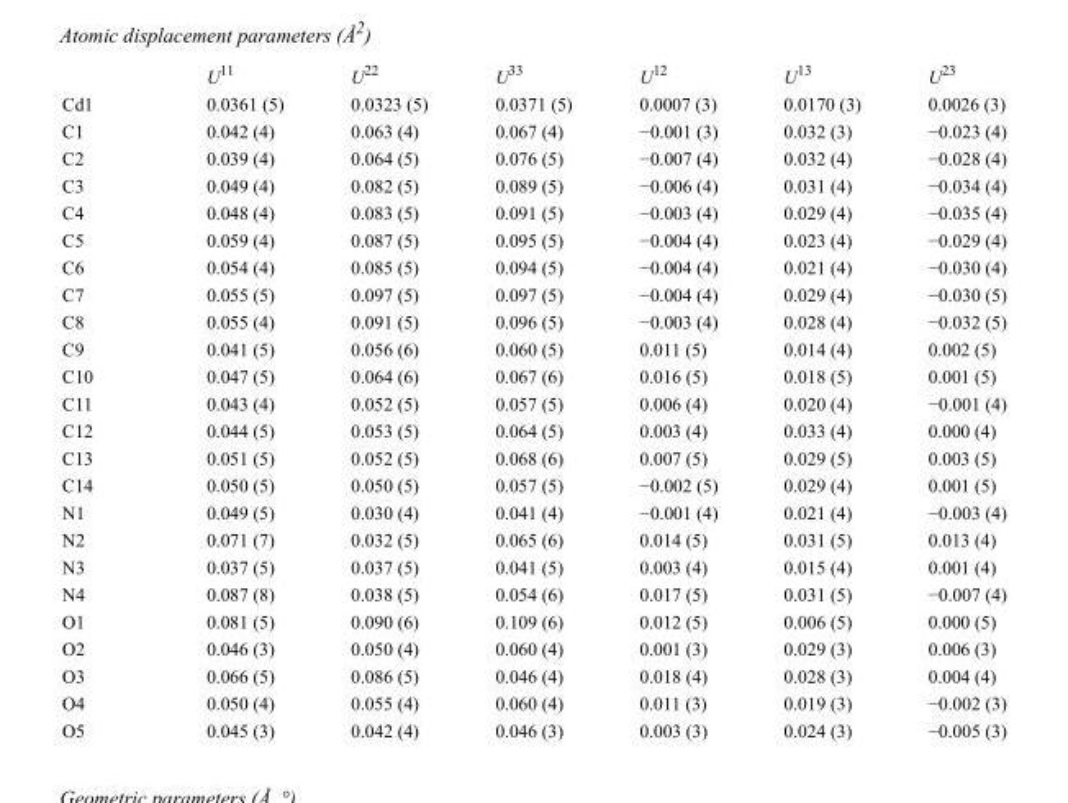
<table><thead><tr><td></td><td>U<sup>11</sup></td><td>U<sup>22</sup></td><td>U<sup>33</sup></td><td>U<sup>12</sup></td><td>U<sup>13</sup></td><td>U<sup>23</sup></td></tr></thead><tbody><tr><td>Cd1</td><td>0.0361 (5)</td><td>0.0323 (5)</td><td>0.0371 (5)</td><td>0.0007 (3)</td><td>0.0170 (3)</td><td>0.0026 (3)</td></tr><tr><td>C1</td><td>0.042 (4)</td><td>0.063 (4)</td><td>0.067 (4)</td><td>−0.001 (3)</td><td>0.032 (3)</td><td>−0.023 (4)</td></tr><tr><td>C2</td><td>0.039 (4)</td><td>0.064 (5)</td><td>0.076 (5)</td><td>−0.007 (4)</td><td>0.032 (4)</td><td>−0.028 (4)</td></tr><tr><td>C3</td><td>0.049 (4)</td><td>0.082 (5)</td><td>0.089 (5)</td><td>−0.006 (4)</td><td>0.031 (4)</td><td>−0.034 (4)</td></tr><tr><td>C4</td><td>0.048 (4)</td><td>0.083 (5)</td><td>0.091 (5)</td><td>−0.003 (4)</td><td>0.029 (4)</td><td>−0.035 (4)</td></tr><tr><td>C5</td><td>0.059 (4)</td><td>0.087 (5)</td><td>0.095 (5)</td><td>−0.004 (4)</td><td>0.023 (4)</td><td>−0.029 (4)</td></tr><tr><td>C6</td><td>0.054 (4)</td><td>0.085 (5)</td><td>0.094 (5)</td><td>−0.004 (4)</td><td>0.021 (4)</td><td>−0.030 (4)</td></tr><tr><td>C7</td><td>0.055 (5)</td><td>0.097 (5)</td><td>0.097 (5)</td><td>−0.004 (4)</td><td>0.029 (4)</td><td>−0.030 (5)</td></tr><tr><td>C8</td><td>0.055 (4)</td><td>0.091 (5)</td><td>0.096 (5)</td><td>−0.003 (4)</td><td>0.028 (4)</td><td>−0.032 (5)</td></tr><tr><td>C9</td><td>0.041 (5)</td><td>0.056 (6)</td><td>0.060 (5)</td><td>0.011 (5)</td><td>0.014 (4)</td><td>0.002 (5)</td></tr><tr><td>C10</td><td>0.047 (5)</td><td>0.064 (6)</td><td>0.067 (6)</td><td>0.016 (5)</td><td>0.018 (5)</td><td>0.001 (5)</td></tr><tr><td>C11</td><td>0.043 (4)</td><td>0.052 (5)</td><td>0.057 (5)</td><td>0.006 (4)</td><td>0.020 (4)</td><td>−0.001 (4)</td></tr><tr><td>C12</td><td>0.044 (5)</td><td>0.053 (5)</td><td>0.064 (5)</td><td>0.003 (4)</td><td>0.033 (4)</td><td>0.000 (4)</td></tr><tr><td>C13</td><td>0.051 (5)</td><td>0.052 (5)</td><td>0.068 (6)</td><td>0.007 (5)</td><td>0.029 (5)</td><td>0.003 (5)</td></tr><tr><td>C14</td><td>0.050 (5)</td><td>0.050 (5)</td><td>0.057 (5)</td><td>−0.002 (5)</td><td>0.029 (4)</td><td>0.001 (5)</td></tr><tr><td>N1</td><td>0.049 (5)</td><td>0.030 (4)</td><td>0.041 (4)</td><td>−0.001 (4)</td><td>0.021 (4)</td><td>−0.003 (4)</td></tr><tr><td>N2</td><td>0.071 (7)</td><td>0.032 (5)</td><td>0.065 (6)</td><td>0.014 (5)</td><td>0.031 (5)</td><td>0.013 (4)</td></tr><tr><td>N3</td><td>0.037 (5)</td><td>0.037 (5)</td><td>0.041 (5)</td><td>0.003 (4)</td><td>0.015 (4)</td><td>0.001 (4)</td></tr><tr><td>N4</td><td>0.087 (8)</td><td>0.038 (5)</td><td>0.054 (6)</td><td>0.017 (5)</td><td>0.031 (5)</td><td>−0.007 (4)</td></tr><tr><td>O1</td><td>0.081 (5)</td><td>0.090 (6)</td><td>0.109 (6)</td><td>0.012 (5)</td><td>0.006 (5)</td><td>0.000 (5)</td></tr><tr><td>O2</td><td>0.046 (3)</td><td>0.050 (4)</td><td>0.060 (4)</td><td>0.001 (3)</td><td>0.029 (3)</td><td>0.006 (3)</td></tr><tr><td>O3</td><td>0.066 (5)</td><td>0.086 (5)</td><td>0.046 (4)</td><td>0.018 (4)</td><td>0.028 (3)</td><td>0.004 (4)</td></tr><tr><td>O4</td><td>0.050 (4)</td><td>0.055 (4)</td><td>0.060 (4)</td><td>0.011 (3)</td><td>0.019 (3)</td><td>−0.002 (3)</td></tr><tr><td>O5</td><td>0.045 (3)</td><td>0.042 (4)</td><td>0.046 (3)</td><td>0.003 (3)</td><td>0.024 (3)</td><td>−0.005 (3)</td></tr></tbody></table>